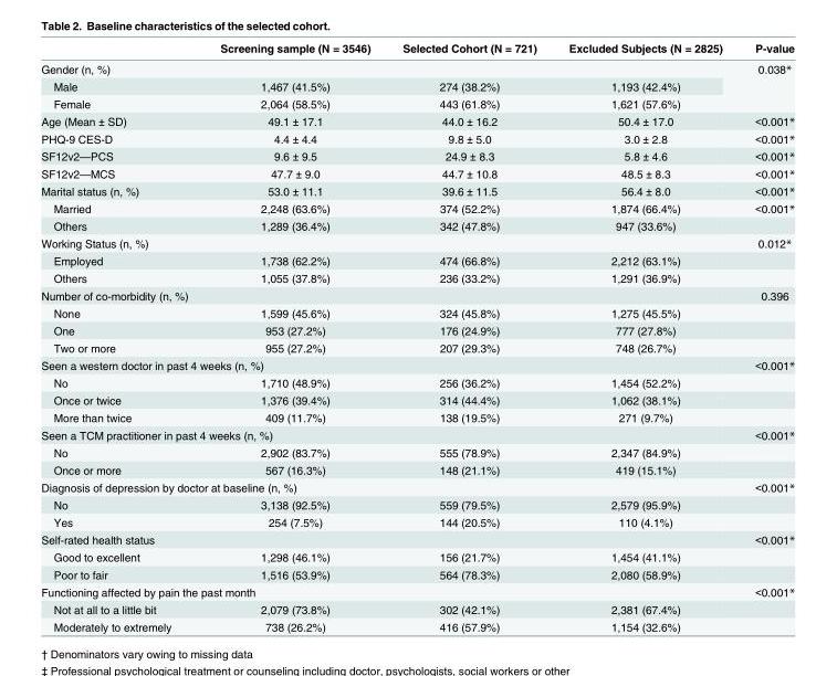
<table><thead><tr><td></td><td>Screening sample (N = 3546)</td><td>Selected Cohort (N = 721)</td><td>Excluded Subjects (N = 2825)</td><td>P-value</td></tr></thead><tbody><tr><td colspan="4">Gender (n, %)</td><td rowspan="3">0.038*</td></tr><tr><td>Male</td><td>1,467 (41.5%)</td><td>274 (38.2%)</td><td>1,193 (42.4%)</td></tr><tr><td>Female</td><td>2,064 (58.5%)</td><td>443 (61.8%)</td><td>1,621 (57.6%)</td></tr><tr><td>Age (Mean ± SD)</td><td>49.1 ± 17.1</td><td>44.0 ± 16.2</td><td>50.4 ± 17.0</td><td>&lt;0.001*</td></tr><tr><td>PHQ-9 CES-D</td><td>4.4 ± 4.4</td><td>9.8 ± 5.0</td><td>3.0 ± 2.8</td><td>&lt;0.001*</td></tr><tr><td>SF12v2—PCS</td><td>9.6 ± 9.5</td><td>24.9 ± 8.3</td><td>5.8 ± 4.6</td><td>&lt;0.001*</td></tr><tr><td>SF12v2—MCS</td><td>47.7 ± 9.0</td><td>44.7 ± 10.8</td><td>48.5 ± 8.3</td><td>&lt;0.001*</td></tr><tr><td>Marital status (n, %)</td><td>53.0 ± 11.1</td><td>39.6 ± 11.5</td><td>56.4 ± 8.0</td><td>&lt;0.001*</td></tr><tr><td>Married</td><td>2,248 (63.6%)</td><td>374 (52.2%)</td><td>1,874 (66.4%)</td><td>&lt;0.001*</td></tr><tr><td>Others</td><td>1,289 (36.4%)</td><td>342 (47.8%)</td><td>947 (33.6%)</td><td></td></tr><tr><td>Working Status (n, %)</td><td></td><td></td><td></td><td>0.012*</td></tr><tr><td>Employed</td><td>1,738 (62.2%)</td><td>474 (66.8%)</td><td>2,212 (63.1%)</td><td></td></tr><tr><td>Others</td><td>1,055 (37.8%)</td><td>236 (33.2%)</td><td>1,291 (36.9%)</td><td></td></tr><tr><td>Number of co-morbidity (n, %)</td><td></td><td></td><td></td><td>0.396</td></tr><tr><td>None</td><td>1,599 (45.6%)</td><td>324 (45.8%)</td><td>1,275 (45.5%)</td><td></td></tr><tr><td>One</td><td>953 (27.2%)</td><td>176 (24.9%)</td><td>777 (27.8%)</td><td></td></tr><tr><td>Two or more</td><td>955 (27.2%)</td><td>207 (29.3%)</td><td>748 (26.7%)</td><td></td></tr><tr><td colspan="2">Seen a western doctor in past 4 weeks (n, %)</td><td></td><td></td><td>&lt;0.001*</td></tr><tr><td>No</td><td>1,710 (48.9%)</td><td>256 (36.2%)</td><td>1,454 (52.2%)</td><td></td></tr><tr><td>Once or twice</td><td>1,376 (39.4%)</td><td>314 (44.4%)</td><td>1,062 (38.1%)</td><td></td></tr><tr><td>More than twice</td><td>409 (11.7%)</td><td>138 (19.5%)</td><td>271 (9.7%)</td><td></td></tr><tr><td colspan="2">Seen a TCM practitioner in past 4 weeks (n, %)</td><td></td><td></td><td>&lt;0.001*</td></tr><tr><td>No</td><td>2,902 (83.7%)</td><td>555 (78.9%)</td><td>2,347 (84.9%)</td><td></td></tr><tr><td>Once or more</td><td>567 (16.3%)</td><td>148 (21.1%)</td><td>419 (15.1%)</td><td></td></tr><tr><td colspan="2">Diagnosis of depression by doctor at baseline (n, %)</td><td></td><td></td><td>&lt;0.001*</td></tr><tr><td>No</td><td>3,138 (92.5%)</td><td>559 (79.5%)</td><td>2,579 (95.9%)</td><td></td></tr><tr><td>Yes</td><td>254 (7.5%)</td><td>144 (20.5%)</td><td>110 (4.1%)</td><td></td></tr><tr><td>Self-rated health status</td><td></td><td></td><td></td><td>&lt;0.001*</td></tr><tr><td>Good to excellent</td><td>1,298 (46.1%)</td><td>156 (21.7%)</td><td>1,454 (41.1%)</td><td></td></tr><tr><td>Poor to fair</td><td>1,516 (53.9%)</td><td>564 (78.3%)</td><td>2,080 (58.9%)</td><td></td></tr><tr><td colspan="2">Functioning affected by pain the past month</td><td></td><td></td><td>&lt;0.001*</td></tr><tr><td>Not at all to a little bit</td><td>2,079 (73.8%)</td><td>302 (42.1%)</td><td>2,381 (67.4%)</td><td></td></tr><tr><td>Moderately to extremely</td><td>738 (26.2%)</td><td>416 (57.9%)</td><td>1,154 (32.6%)</td><td></td></tr></tbody></table>